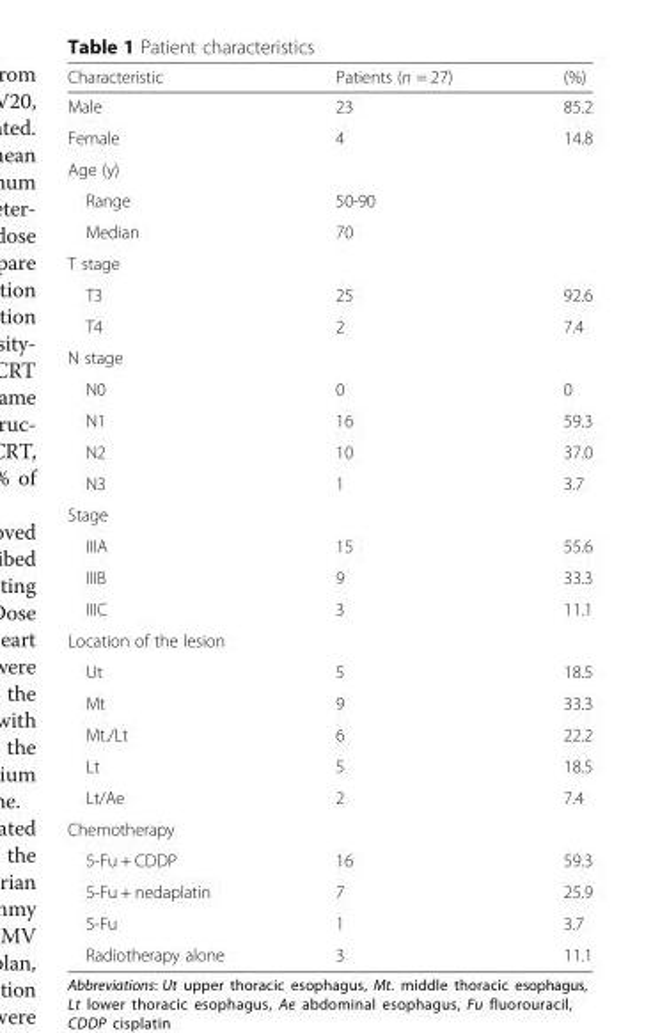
<table><thead><tr><td>Characteristic</td><td>Patients (n = 27)</td><td>(%)</td></tr></thead><tbody><tr><td>Male</td><td>23</td><td>85.2</td></tr><tr><td>Female</td><td>4</td><td>14.8</td></tr><tr><td colspan="3">Age (y)</td></tr><tr><td>Range</td><td>50-90</td><td></td></tr><tr><td>Median</td><td>70</td><td></td></tr><tr><td colspan="3">T stage</td></tr><tr><td>T3</td><td>25</td><td>92.6</td></tr><tr><td>T4</td><td>2</td><td>7.4</td></tr><tr><td colspan="3">N stage</td></tr><tr><td>N0</td><td>0</td><td>0</td></tr><tr><td>N1</td><td>16</td><td>59.3</td></tr><tr><td>N2</td><td>10</td><td>37.0</td></tr><tr><td>N3</td><td>1</td><td>3.7</td></tr><tr><td colspan="3">Stage</td></tr><tr><td>IIIA</td><td>15</td><td>55.6</td></tr><tr><td>IIIB</td><td>9</td><td>33.3</td></tr><tr><td>IIIC</td><td>3</td><td>11.1</td></tr><tr><td colspan="3">Location of the lesion</td></tr><tr><td>Ut</td><td>5</td><td>18.5</td></tr><tr><td>Mt</td><td>9</td><td>33.3</td></tr><tr><td>Mt./Lt</td><td>6</td><td>22.2</td></tr><tr><td>Lt</td><td>5</td><td>18.5</td></tr><tr><td>Lt/Ae</td><td>2</td><td>7.4</td></tr><tr><td colspan="3">Chemotherapy</td></tr><tr><td>5-Fu + CDDP</td><td>16</td><td>59.3</td></tr><tr><td>5-Fu + nedaplatin</td><td>7</td><td>25.9</td></tr><tr><td>5-Fu</td><td>1</td><td>3.7</td></tr><tr><td>Radiotherapy alone</td><td>3</td><td>11.1</td></tr></tbody></table>